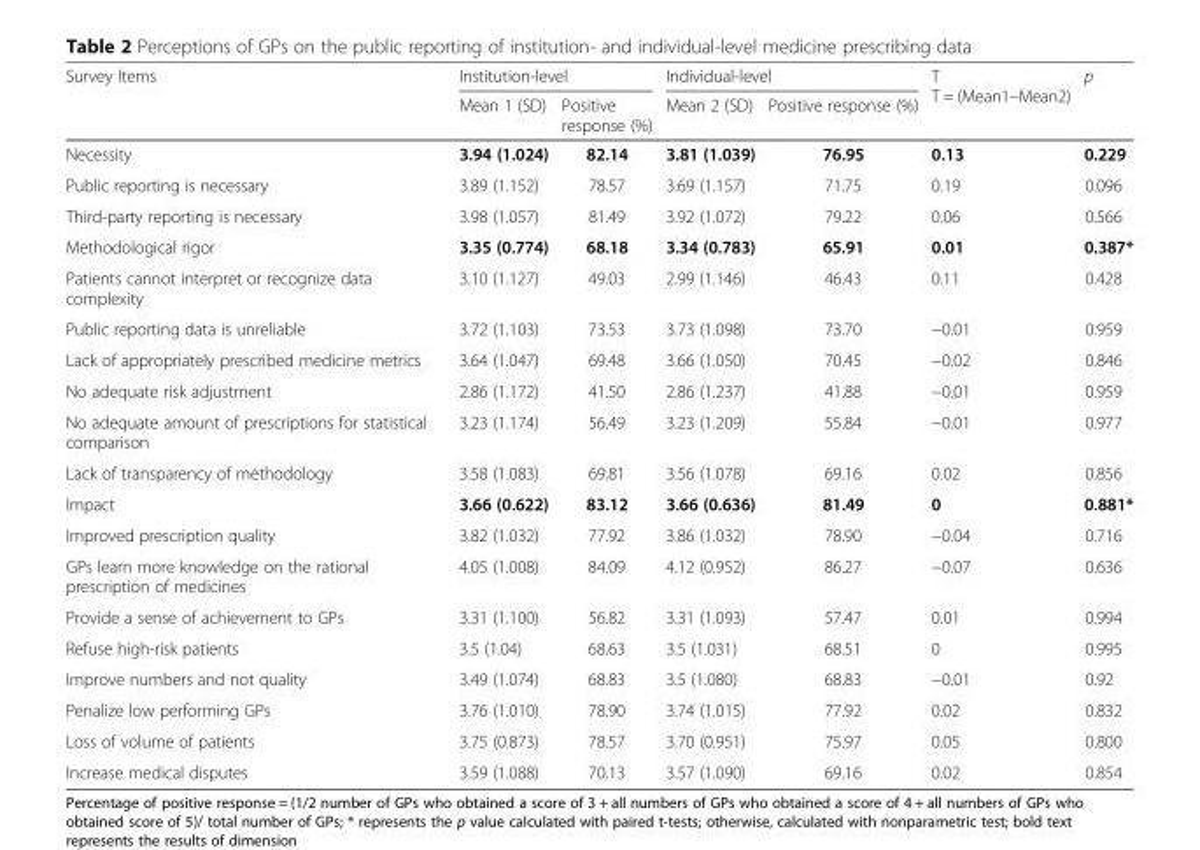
<table><thead><tr><td rowspan="2">Survey Items</td><td colspan="2">Institution-level</td><td colspan="2">Individual-level</td><td rowspan="2">T T = (Mean1–Mean2)</td><td rowspan="2">p</td></tr><tr><td>Mean 1 (SD)</td><td>Positive response (%)</td><td>Mean 2 (SD)</td><td>Positive response (%)</td></tr></thead><tbody><tr><td>Necessity</td><td>3.94 (1.024)</td><td>82.14</td><td>3.81 (1.039)</td><td>76.95</td><td>0.13</td><td>0.229</td></tr><tr><td>Public reporting is necessary</td><td>3.89 (1.152)</td><td>78.57</td><td>3.69 (1.157)</td><td>71.75</td><td>0.19</td><td>0.096</td></tr><tr><td>Third-party reporting is necessary</td><td>3.98 (1.057)</td><td>81.49</td><td>3.92 (1.072)</td><td>79.22</td><td>0.06</td><td>0.566</td></tr><tr><td>Methodological rigor</td><td>3.35 (0.774)</td><td>68.18</td><td>3.34 (0.783)</td><td>65.91</td><td>0.01</td><td>0.387*</td></tr><tr><td>Patients cannot interpret or recognize data complexity</td><td>3.10 (1.127)</td><td>49.03</td><td>2.99 (1.146)</td><td>46.43</td><td>0.11</td><td>0.428</td></tr><tr><td>Public reporting data is unreliable</td><td>3.72 (1.103)</td><td>73.53</td><td>3.73 (1.098)</td><td>73.70</td><td>−0.01</td><td>0.959</td></tr><tr><td>Lack of appropriately prescribed medicine metrics</td><td>3.64 (1.047)</td><td>69.48</td><td>3.66 (1.050)</td><td>70.45</td><td>−0.02</td><td>0.846</td></tr><tr><td>No adequate risk adjustment</td><td>2.86 (1.172)</td><td>41.50</td><td>2.86 (1.237)</td><td>41.88</td><td>−0.01</td><td>0.959</td></tr><tr><td>No adequate amount of prescriptions for statistical comparison</td><td>3.23 (1.174)</td><td>56.49</td><td>3.23 (1.209)</td><td>55.84</td><td>−0.01</td><td>0.977</td></tr><tr><td>Lack of transparency of methodology</td><td>3.58 (1.083)</td><td>69.81</td><td>3.56 (1.078)</td><td>69.16</td><td>0.02</td><td>0.856</td></tr><tr><td>Impact</td><td>3.66 (0.622)</td><td>83.12</td><td>3.66 (0.636)</td><td>81.49</td><td>0</td><td>0.881*</td></tr><tr><td>Improved prescription quality</td><td>3.82 (1.032)</td><td>77.92</td><td>3.86 (1.032)</td><td>78.90</td><td>−0.04</td><td>0.716</td></tr><tr><td>GPs learn more knowledge on the rational prescription of medicines</td><td>4.05 (1.008)</td><td>84.09</td><td>4.12 (0.952)</td><td>86.27</td><td>−0.07</td><td>0.636</td></tr><tr><td>Provide a sense of achievement to GPs</td><td>3.31 (1.100)</td><td>56.82</td><td>3.31 (1.093)</td><td>57.47</td><td>0.01</td><td>0.994</td></tr><tr><td>Refuse high-risk patients</td><td>3.5 (1.04)</td><td>68.63</td><td>3.5 (1.031)</td><td>68.51</td><td>0</td><td>0.995</td></tr><tr><td>Improve numbers and not quality</td><td>3.49 (1.074)</td><td>68.83</td><td>3.5 (1.080)</td><td>68.83</td><td>−0.01</td><td>0.92</td></tr><tr><td>Penalize low performing GPs</td><td>3.76 (1.010)</td><td>78.90</td><td>3.74 (1.015)</td><td>77.92</td><td>0.02</td><td>0.832</td></tr><tr><td>Loss of volume of patients</td><td>3.75 (0.873)</td><td>78.57</td><td>3.70 (0.951)</td><td>75.97</td><td>0.05</td><td>0.800</td></tr><tr><td>Increase medical disputes</td><td>3.59 (1.088)</td><td>70.13</td><td>3.57 (1.090)</td><td>69.16</td><td>0.02</td><td>0.854</td></tr></tbody></table>